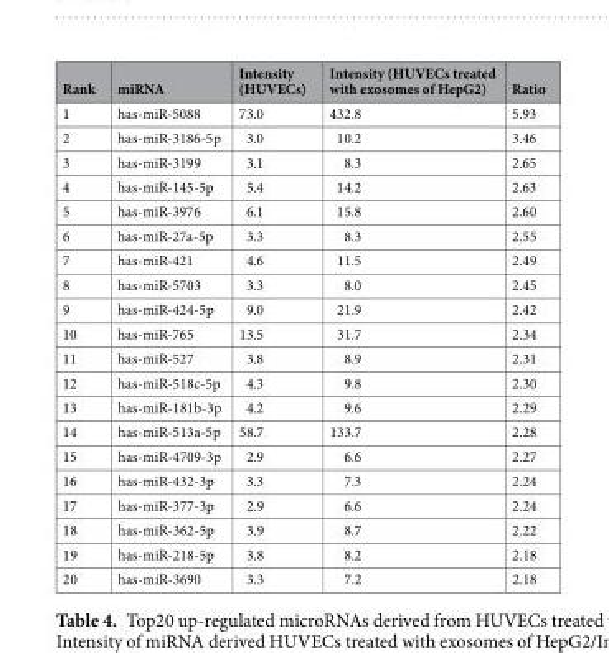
<table><thead><tr><td>Rank</td><td>miRNA</td><td>Intensity (HUVECs)</td><td>Intensity (HUVECs treated with exosomes of HepG2)</td><td>Ratio</td></tr></thead><tbody><tr><td>1</td><td>has-miR-5088</td><td>73.0</td><td>432.8</td><td>5.93</td></tr><tr><td>2</td><td>has-miR-3186-5p</td><td>3.0</td><td>10.2</td><td>3.46</td></tr><tr><td>3</td><td>has-miR-3199</td><td>3.1</td><td>8.3</td><td>2.65</td></tr><tr><td>4</td><td>has-miR-145-5p</td><td>5.4</td><td>14.2</td><td>2.63</td></tr><tr><td>5</td><td>has-miR-3976</td><td>6.1</td><td>15.8</td><td>2.60</td></tr><tr><td>6</td><td>has-miR-27a-5p</td><td>3.3</td><td>8.3</td><td>2.55</td></tr><tr><td>7</td><td>has-miR-421</td><td>4.6</td><td>11.5</td><td>2.49</td></tr><tr><td>8</td><td>has-miR-5703</td><td>3.3</td><td>8.0</td><td>2.45</td></tr><tr><td>9</td><td>has-miR-424-5p</td><td>9.0</td><td>21.9</td><td>2.42</td></tr><tr><td>10</td><td>has-miR-765</td><td>13.5</td><td>31.7</td><td>2.34</td></tr><tr><td>11</td><td>has-miR-527</td><td>3.8</td><td>8.9</td><td>2.31</td></tr><tr><td>12</td><td>has-miR-518c-5p</td><td>4.3</td><td>9.8</td><td>2.30</td></tr><tr><td>13</td><td>has-miR-181b-3p</td><td>4.2</td><td>9.6</td><td>2.29</td></tr><tr><td>14</td><td>has-miR-513a-5p</td><td>58.7</td><td>133.7</td><td>2.28</td></tr><tr><td>15</td><td>has-miR-4709-3p</td><td>2.9</td><td>6.6</td><td>2.27</td></tr><tr><td>16</td><td>has-miR-432-3p</td><td>3.3</td><td>7.3</td><td>2.24</td></tr><tr><td>17</td><td>has-miR-377-3p</td><td>2.9</td><td>6.6</td><td>2.24</td></tr><tr><td>18</td><td>has-miR-362-5p</td><td>3.9</td><td>8.7</td><td>2.22</td></tr><tr><td>19</td><td>has-miR-218-5p</td><td>3.8</td><td>8.2</td><td>2.18</td></tr><tr><td>20</td><td>has-miR-3690</td><td>3.3</td><td>7.2</td><td>2.18</td></tr></tbody></table>